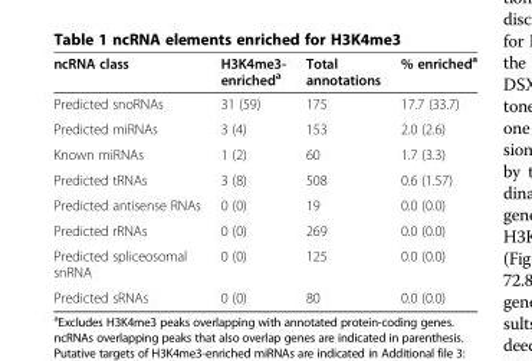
<table><thead><tr><td>ncRNA class</td><td>H3K4me3- enriched<sup>a</sup></td><td>Total annotations</td><td>% enriched<sup>a</sup></td></tr></thead><tbody><tr><td>Predicted snoRNAs</td><td>31 (59)</td><td>175</td><td>17.7 (33.7)</td></tr><tr><td>Predicted miRNAs</td><td>3 (4)</td><td>153</td><td>2.0 (2.6)</td></tr><tr><td>Known miRNAs</td><td>1 (2)</td><td>60</td><td>1.7 (3.3)</td></tr><tr><td>Predicted tRNAs</td><td>3 (8)</td><td>508</td><td>0.6 (1.57)</td></tr><tr><td>Predicted antisense RNAs</td><td>0 (0)</td><td>19</td><td>0.0 (0.0)</td></tr><tr><td>Predicted rRNAs</td><td>0 (0)</td><td>269</td><td>0.0 (0.0)</td></tr><tr><td>Predicted spliceosomal snRNA</td><td>0 (0)</td><td>125</td><td>0.0 (0.0)</td></tr><tr><td>Predicted sRNAs</td><td>0 (0)</td><td>80</td><td>0.0 (0.0)</td></tr></tbody></table>